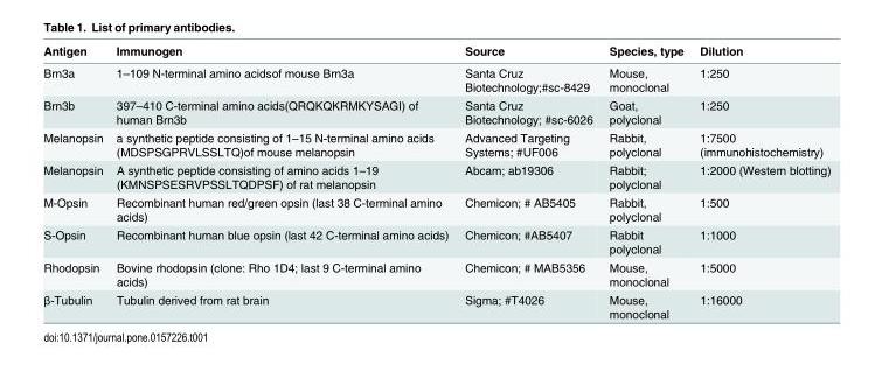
<table><thead><tr><td>Antigen</td><td>Immunogen</td><td>Source</td><td>Species, type</td><td>Dilution</td></tr></thead><tbody><tr><td>Brn3a</td><td>1–109 N-terminal amino acidsof mouse Brn3a</td><td>Santa Cruz Biotechnology;#sc-8429</td><td>Mouse, monoclonal</td><td>1:250</td></tr><tr><td>Brn3b</td><td>397–410 C-terminal amino acids(QRQKQKRMKYSAGI) of human Brn3b</td><td>Santa Cruz Biotechnology; #sc-6026</td><td>Goat, polyclonal</td><td>1:250</td></tr><tr><td>Melanopsin</td><td>a synthetic peptide consisting of 1–15 N-terminal amino acids (MDSPSGPRVLSSLTQ)of mouse melanopsin</td><td>Advanced Targeting Systems; #UF006</td><td>Rabbit, polyclonal</td><td>1:7500 (immunohistochemistry)</td></tr><tr><td>Melanopsin</td><td>A synthetic peptide consisting of amino acids 1–19 (KMNSPSESRVPSSLTQDPSF) of rat melanopsin</td><td>Abcam; ab19306</td><td>Rabbit; polyclonal</td><td>1:2000 (Western blotting)</td></tr><tr><td>M-Opsin</td><td>Recombinant human red/green opsin (last 38 C-terminal amino acids)</td><td>Chemicon; # AB5405</td><td>Rabbit, polyclonal</td><td>1:500</td></tr><tr><td>S-Opsin</td><td>Recombinant human blue opsin (last 42 C-terminal amino acids)</td><td>Chemicon; #AB5407</td><td>Rabbit polyclonal</td><td>1:1000</td></tr><tr><td>Rhodopsin</td><td>Bovine rhodopsin (clone: Rho 1D4; last 9 C-terminal amino acids)</td><td>Chemicon; # MAB5356</td><td>Mouse, monoclonal</td><td>1:5000</td></tr><tr><td>β-Tubulin</td><td>Tubulin derived from rat brain</td><td>Sigma; #T4026</td><td>Mouse, monoclonal</td><td>1:16000</td></tr></tbody></table>